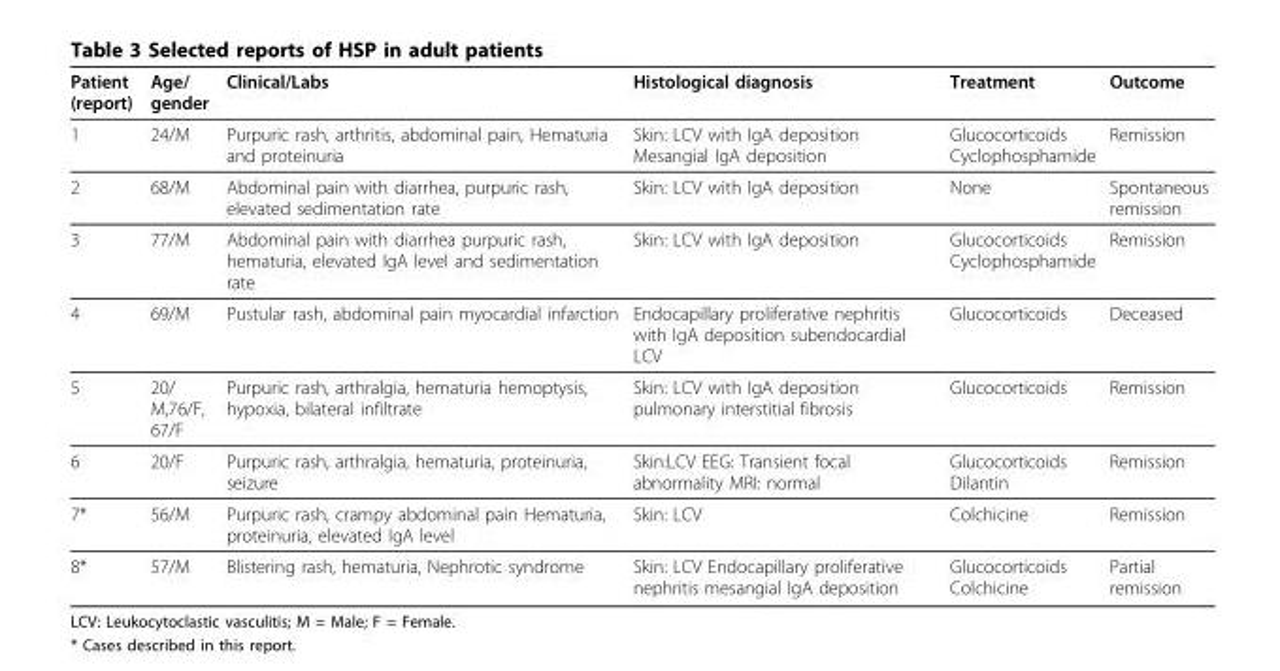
<table><thead><tr><td>Patient (report)</td><td>Age/ gender</td><td>Clinical/Labs</td><td>Histological diagnosis</td><td>Treatment</td><td>Outcome</td></tr></thead><tbody><tr><td>1</td><td>24/M</td><td>Purpuric rash, arthritis, abdominal pain, Hematuria and proteinuria</td><td>Skin: LCV with IgA deposition Mesangial IgA deposition</td><td>Glucocorticoids Cyclophosphamide</td><td>Remission</td></tr><tr><td>2</td><td>68/M</td><td>Abdominal pain with diarrhea, purpuric rash, elevated sedimentation rate</td><td>Skin: LCV with IgA deposition</td><td>None</td><td>Spontaneous remission</td></tr><tr><td>3</td><td>77/M</td><td>Abdominal pain with diarrhea purpuric rash, hematuria, elevated IgA level and sedimentation rate</td><td>Skin: LCV with IgA deposition</td><td>Glucocorticoids Cyclophosphamide</td><td>Remission</td></tr><tr><td>4</td><td>69/M</td><td>Pustular rash, abdominal pain myocardial infarction</td><td>Endocapillary proliferative nephritis with IgA deposition subendocardial LCV</td><td>Glucocorticoids</td><td>Deceased</td></tr><tr><td>5</td><td>20/ M,76/F, 67/F</td><td>Purpuric rash, arthralgia, hematuria hemoptysis, hypoxia, bilateral infiltrate</td><td>Skin: LCV with IgA deposition pulmonary interstitial fibrosis</td><td>Glucocorticoids</td><td>Remission</td></tr><tr><td>6</td><td>20/F</td><td>Purpuric rash, arthralgia, hematuria, proteinuria, seizure</td><td>Skin:LCV EEG: Transient focal abnormality MRI: normal</td><td>Glucocorticoids Dilantin</td><td>Remission</td></tr><tr><td>7*</td><td>56/M</td><td>Purpuric rash, crampy abdominal pain Hematuria, proteinuria, elevated IgA level</td><td>Skin: LCV</td><td>Colchicine</td><td>Remission</td></tr><tr><td>8*</td><td>57/M</td><td>Blistering rash, hematuria, Nephrotic syndrome</td><td>Skin: LCV Endocapillary proliferative nephritis mesangial IgA deposition</td><td>Glucocorticoids Colchicine</td><td>Partial remission</td></tr></tbody></table>